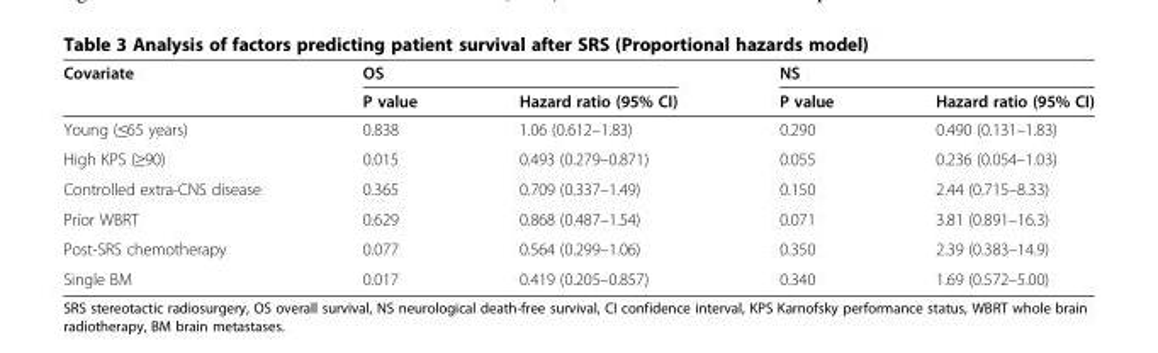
<table><thead><tr><td rowspan="2">Covariate</td><td colspan="2">OS</td><td colspan="2">NS</td></tr><tr><td>P value</td><td>Hazard ratio (95% CI)</td><td>P value</td><td>Hazard ratio (95% CI)</td></tr></thead><tbody><tr><td>Young (≤65 years)</td><td>0.838</td><td>1.06 (0.612–1.83)</td><td>0.290</td><td>0.490 (0.131–1.83)</td></tr><tr><td>High KPS (≥90)</td><td>0.015</td><td>0.493 (0.279–0.871)</td><td>0.055</td><td>0.236 (0.054–1.03)</td></tr><tr><td>Controlled extra-CNS disease</td><td>0.365</td><td>0.709 (0.337–1.49)</td><td>0.150</td><td>2.44 (0.715–8.33)</td></tr><tr><td>Prior WBRT</td><td>0.629</td><td>0.868 (0.487–1.54)</td><td>0.071</td><td>3.81 (0.891–16.3)</td></tr><tr><td>Post-SRS chemotherapy</td><td>0.077</td><td>0.564 (0.299–1.06)</td><td>0.350</td><td>2.39 (0.383–14.9)</td></tr><tr><td>Single BM</td><td>0.017</td><td>0.419 (0.205–0.857)</td><td>0.340</td><td>1.69 (0.572–5.00)</td></tr></tbody></table>